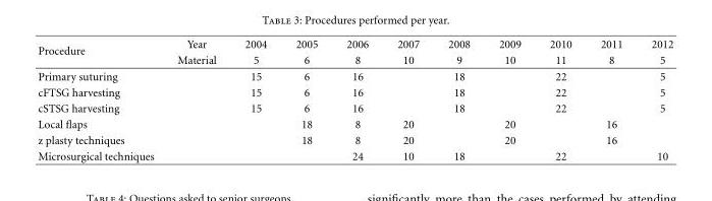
<table><thead><tr><td rowspan="2">Procedure</td><td rowspan="2">Year Material</td><td rowspan="2">2004 5</td><td rowspan="2">2005 6</td><td rowspan="2">2006 8</td><td rowspan="2">2007 10</td><td rowspan="2">2008 9</td><td rowspan="2">2009 10</td><td rowspan="2">2010 11</td><td rowspan="2">2011 8</td><td rowspan="2">2012 5</td></tr><tr></tr></thead><tbody><tr><td>Primary suturing</td><td></td><td>15</td><td>6</td><td>16</td><td></td><td>18</td><td></td><td>22</td><td></td><td>5</td></tr><tr><td>cFTSG harvesting</td><td></td><td>15</td><td>6</td><td>16</td><td></td><td>18</td><td></td><td>22</td><td></td><td>5</td></tr><tr><td>cSTSG harvesting</td><td></td><td>15</td><td>6</td><td>16</td><td></td><td>18</td><td></td><td>22</td><td></td><td>5</td></tr><tr><td>Local flaps</td><td></td><td></td><td>18</td><td>8</td><td>20</td><td></td><td>20</td><td></td><td>16</td><td></td></tr><tr><td>z plasty techniques</td><td></td><td></td><td>18</td><td>8</td><td>20</td><td></td><td>20</td><td></td><td>16</td><td></td></tr><tr><td>Microsurgical techniques</td><td></td><td></td><td></td><td>24</td><td>10</td><td>18</td><td></td><td>22</td><td></td><td>10</td></tr></tbody></table>